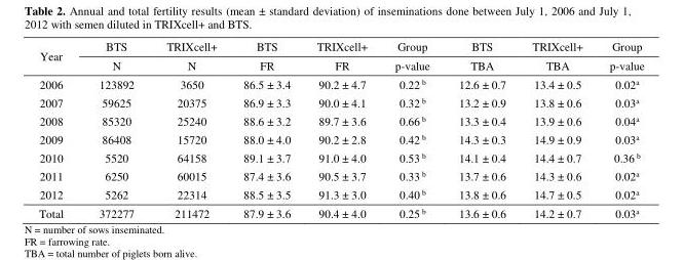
<table><thead><tr><td rowspan="2">Year</td><td rowspan="2">BTS N</td><td rowspan="2">TRIXcell+ N</td><td rowspan="2">BTS FR</td><td rowspan="2">TRIXcell+ FR</td><td rowspan="2">Group p-value</td><td rowspan="2">BTS TBA</td><td rowspan="2">TRIXcell+ TBA</td><td rowspan="2">Group p-value</td></tr><tr></tr></thead><tbody><tr><td>2006</td><td>123892</td><td>3650</td><td>86.5 ± 3.4</td><td>90.2 ± 4.7</td><td>0.22 b</td><td>12.6 ± 0.7</td><td>13.4 ± 0.5</td><td>0.02<sup>a</sup></td></tr><tr><td>2007</td><td>59625</td><td>20375</td><td>86.9 ± 3.3</td><td>90.0 ± 4.1</td><td>0.32 b</td><td>13.2 ± 0.9</td><td>13.8 ± 0.6</td><td>0.03<sup>a</sup></td></tr><tr><td>2008</td><td>85320</td><td>25240</td><td>88.6 ± 3.2</td><td>89.7 ± 3.6</td><td>0.66 b</td><td>13.3 ± 0.4</td><td>13.9 ± 0.6</td><td>0.04<sup>a</sup></td></tr><tr><td>2009</td><td>86408</td><td>15720</td><td>88.0 ± 4.0</td><td>90.2 ± 2.8</td><td>0.42 b</td><td>14.3 ± 0.3</td><td>14.9 ± 0.9</td><td>0.03<sup>a</sup></td></tr><tr><td>2010</td><td>5520</td><td>64158</td><td>89.1 ± 3.7</td><td>91.0 ± 4.0</td><td>0.53 b</td><td>14.1 ± 0.4</td><td>14.4 ± 0.7</td><td>0.36 b</td></tr><tr><td>2011</td><td>6250</td><td>60015</td><td>87.4 ± 3.6</td><td>90.5 ± 3.7</td><td>0.33 b</td><td>13.7 ± 0.6</td><td>14.3 ± 0.6</td><td>0.02<sup>a</sup></td></tr><tr><td>2012</td><td>5262</td><td>22314</td><td>88.5 ± 3.5</td><td>91.3 ± 3.0</td><td>0.40 b</td><td>13.8 ± 0.6</td><td>14.7 ± 0.5</td><td>0.02<sup>a</sup></td></tr><tr><td>Total</td><td>372277</td><td>211472</td><td>87.9 ± 3.6</td><td>90.4 ± 4.0</td><td>0.25 b</td><td>13.6 ± 0.6</td><td>14.2 ± 0.7</td><td>0.03<sup>a</sup></td></tr></tbody></table>